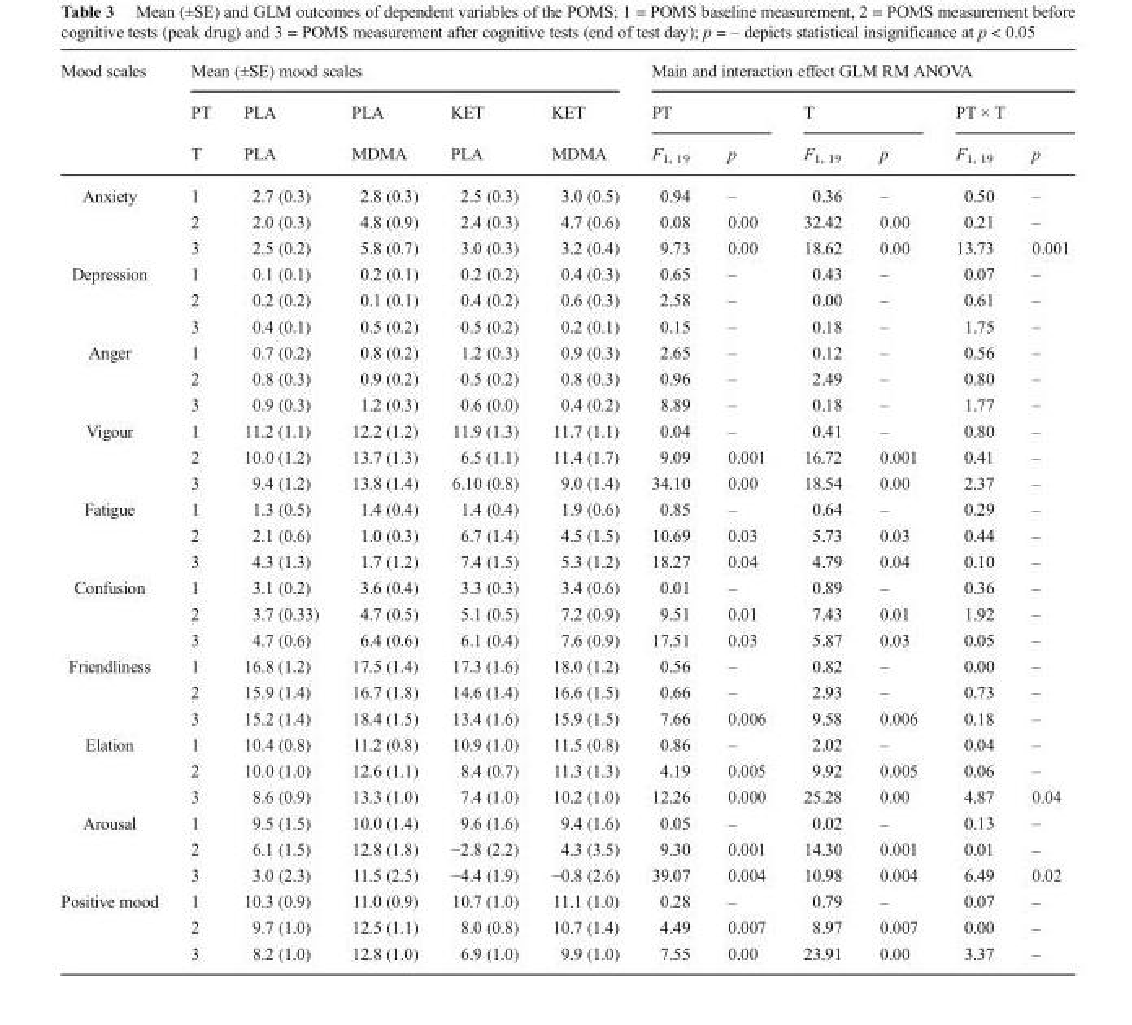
<table><thead><tr><td rowspan="3">Mood scales</td><td colspan="5">Mean (±SE) mood scales</td><td colspan="6">Main and interaction effect GLM RM ANOVA</td></tr><tr><td rowspan="2">PT T</td><td rowspan="2">PLA PLA</td><td rowspan="2">PLA MDMA</td><td rowspan="2">KET PLA</td><td rowspan="2">KET MDMA</td><td colspan="2">PT</td><td colspan="2">T</td><td colspan="2">PT × T</td></tr><tr><td>F<sub>1, 19</sub></td><td>p</td><td>F<sub>1, 19</sub></td><td>p</td><td>F<sub>1, 19</sub></td><td>p</td></tr></thead><tbody><tr><td rowspan="3">Anxiety</td><td>1</td><td>2.7 (0.3)</td><td>2.8 (0.3)</td><td>2.5 (0.3)</td><td>3.0 (0.5)</td><td>0.94</td><td>–</td><td>0.36</td><td>–</td><td>0.50</td><td>–</td></tr><tr><td>2</td><td>2.0 (0.3)</td><td>4.8 (0.9)</td><td>2.4 (0.3)</td><td>4.7 (0.6)</td><td>0.08</td><td>0.00</td><td>32.42</td><td>0.00</td><td>0.21</td><td>–</td></tr><tr><td>3</td><td>2.5 (0.2)</td><td>5.8 (0.7)</td><td>3.0 (0.3)</td><td>3.2 (0.4)</td><td>9.73</td><td>0.00</td><td>18.62</td><td>0.00</td><td>13.73</td><td>0.001</td></tr><tr><td rowspan="3">Depression</td><td>1</td><td>0.1 (0.1)</td><td>0.2 (0.1)</td><td>0.2 (0.2)</td><td>0.4 (0.3)</td><td>0.65</td><td>–</td><td>0.43</td><td>–</td><td>0.07</td><td>–</td></tr><tr><td>2</td><td>0.2 (0.2)</td><td>0.1 (0.1)</td><td>0.4 (0.2)</td><td>0.6 (0.3)</td><td>2.58</td><td>–</td><td>0.00</td><td>–</td><td>0.61</td><td>–</td></tr><tr><td>3</td><td>0.4 (0.1)</td><td>0.5 (0.2)</td><td>0.5 (0.2)</td><td>0.2 (0.1)</td><td>0.15</td><td>–</td><td>0.18</td><td>–</td><td>1.75</td><td>–</td></tr><tr><td rowspan="3">Anger</td><td>1</td><td>0.7 (0.2)</td><td>0.8 (0.2)</td><td>1.2 (0.3)</td><td>0.9 (0.3)</td><td>2.65</td><td>–</td><td>0.12</td><td>–</td><td>0.56</td><td>–</td></tr><tr><td>2</td><td>0.8 (0.3)</td><td>0.9 (0.2)</td><td>0.5 (0.2)</td><td>0.8 (0.3)</td><td>0.96</td><td>–</td><td>2.49</td><td>–</td><td>0.80</td><td>–</td></tr><tr><td>3</td><td>0.9 (0.3)</td><td>1.2 (0.3)</td><td>0.6 (0.0)</td><td>0.4 (0.2)</td><td>8.89</td><td>–</td><td>0.18</td><td>–</td><td>1.77</td><td>–</td></tr><tr><td rowspan="3">Vigour</td><td>1</td><td>11.2 (1.1)</td><td>12.2 (1.2)</td><td>11.9 (1.3)</td><td>11.7 (1.1)</td><td>0.04</td><td>–</td><td>0.41</td><td>–</td><td>0.80</td><td>–</td></tr><tr><td>2</td><td>10.0 (1.2)</td><td>13.7 (1.3)</td><td>6.5 (1.1)</td><td>11.4 (1.7)</td><td>9.09</td><td>0.001</td><td>16.72</td><td>0.001</td><td>0.41</td><td>–</td></tr><tr><td>3</td><td>9.4 (1.2)</td><td>13.8 (1.4)</td><td>6.10 (0.8)</td><td>9.0 (1.4)</td><td>34.10</td><td>0.00</td><td>18.54</td><td>0.00</td><td>2.37</td><td>–</td></tr><tr><td rowspan="3">Fatigue</td><td>1</td><td>1.3 (0.5)</td><td>1.4 (0.4)</td><td>1.4 (0.4)</td><td>1.9 (0.6)</td><td>0.85</td><td>–</td><td>0.64</td><td>–</td><td>0.29</td><td>–</td></tr><tr><td>2</td><td>2.1 (0.6)</td><td>1.0 (0.3)</td><td>6.7 (1.4)</td><td>4.5 (1.5)</td><td>10.69</td><td>0.03</td><td>5.73</td><td>0.03</td><td>0.44</td><td>–</td></tr><tr><td>3</td><td>4.3 (1.3)</td><td>1.7 (1.2)</td><td>7.4 (1.5)</td><td>5.3 (1.2)</td><td>18.27</td><td>0.04</td><td>4.79</td><td>0.04</td><td>0.10</td><td>–</td></tr><tr><td rowspan="3">Confusion</td><td>1</td><td>3.1 (0.2)</td><td>3.6 (0.4)</td><td>3.3 (0.3)</td><td>3.4 (0.6)</td><td>0.01</td><td>–</td><td>0.89</td><td>–</td><td>0.36</td><td>–</td></tr><tr><td>2</td><td>3.7 (0.33)</td><td>4.7 (0.5)</td><td>5.1 (0.5)</td><td>7.2 (0.9)</td><td>9.51</td><td>0.01</td><td>7.43</td><td>0.01</td><td>1.92</td><td>–</td></tr><tr><td>3</td><td>4.7 (0.6)</td><td>6.4 (0.6)</td><td>6.1 (0.4)</td><td>7.6 (0.9)</td><td>17.51</td><td>0.03</td><td>5.87</td><td>0.03</td><td>0.05</td><td>–</td></tr><tr><td rowspan="3">Friendliness</td><td>1</td><td>16.8 (1.2)</td><td>17.5 (1.4)</td><td>17.3 (1.6)</td><td>18.0 (1.2)</td><td>0.56</td><td>–</td><td>0.82</td><td>–</td><td>0.00</td><td>–</td></tr><tr><td>2</td><td>15.9 (1.4)</td><td>16.7 (1.8)</td><td>14.6 (1.4)</td><td>16.6 (1.5)</td><td>0.66</td><td>–</td><td>2.93</td><td>–</td><td>0.73</td><td>–</td></tr><tr><td>3</td><td>15.2 (1.4)</td><td>18.4 (1.5)</td><td>13.4 (1.6)</td><td>15.9 (1.5)</td><td>7.66</td><td>0.006</td><td>9.58</td><td>0.006</td><td>0.18</td><td>–</td></tr><tr><td rowspan="3">Elation</td><td>1</td><td>10.4 (0.8)</td><td>11.2 (0.8)</td><td>10.9 (1.0)</td><td>11.5 (0.8)</td><td>0.86</td><td>–</td><td>2.02</td><td>–</td><td>0.04</td><td>–</td></tr><tr><td>2</td><td>10.0 (1.0)</td><td>12.6 (1.1)</td><td>8.4 (0.7)</td><td>11.3 (1.3)</td><td>4.19</td><td>0.005</td><td>9.92</td><td>0.005</td><td>0.06</td><td>–</td></tr><tr><td>3</td><td>8.6 (0.9)</td><td>13.3 (1.0)</td><td>7.4 (1.0)</td><td>10.2 (1.0)</td><td>12.26</td><td>0.000</td><td>25.28</td><td>0.00</td><td>4.87</td><td>0.04</td></tr><tr><td rowspan="3">Arousal</td><td>1</td><td>9.5 (1.5)</td><td>10.0 (1.4)</td><td>9.6 (1.6)</td><td>9.4 (1.6)</td><td>0.05</td><td>–</td><td>0.02</td><td>–</td><td>0.13</td><td>–</td></tr><tr><td>2</td><td>6.1 (1.5)</td><td>12.8 (1.8)</td><td>−2.8 (2.2)</td><td>4.3 (3.5)</td><td>9.30</td><td>0.001</td><td>14.30</td><td>0.001</td><td>0.01</td><td>–</td></tr><tr><td>3</td><td>3.0 (2.3)</td><td>11.5 (2.5)</td><td>−4.4 (1.9)</td><td>−0.8 (2.6)</td><td>39.07</td><td>0.004</td><td>10.98</td><td>0.004</td><td>6.49</td><td>0.02</td></tr><tr><td rowspan="3">Positive mood</td><td>1</td><td>10.3 (0.9)</td><td>11.0 (0.9)</td><td>10.7 (1.0)</td><td>11.1 (1.0)</td><td>0.28</td><td>–</td><td>0.79</td><td>–</td><td>0.07</td><td>–</td></tr><tr><td>2</td><td>9.7 (1.0)</td><td>12.5 (1.1)</td><td>8.0 (0.8)</td><td>10.7 (1.4)</td><td>4.49</td><td>0.007</td><td>8.97</td><td>0.007</td><td>0.00</td><td>–</td></tr><tr><td>3</td><td>8.2 (1.0)</td><td>12.8 (1.0)</td><td>6.9 (1.0)</td><td>9.9 (1.0)</td><td>7.55</td><td>0.00</td><td>23.91</td><td>0.00</td><td>3.37</td><td>–</td></tr></tbody></table>